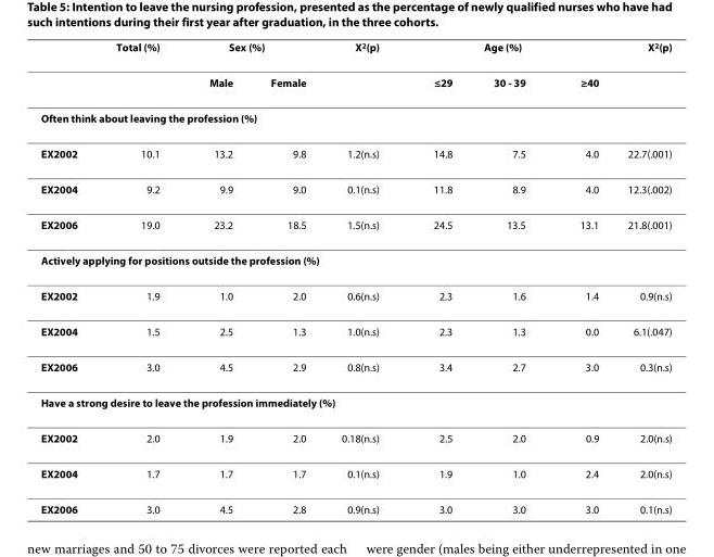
<table><thead><tr><td rowspan="2"></td><td rowspan="2">Total (%)</td><td colspan="2">Sex (%)</td><td rowspan="2">X<sup>2</sup>(p)</td><td colspan="3">Age (%)</td><td rowspan="2">X<sup>2</sup>(p)</td></tr><tr><td>Male</td><td>Female</td><td>≤29</td><td>30 - 39</td><td>≥40</td></tr></thead><tbody><tr><td colspan="9">Often think about leaving the profession (%)</td></tr><tr><td>EX2002</td><td>10.1</td><td>13.2</td><td>9.8</td><td>1.2(n.s)</td><td>14.8</td><td>7.5</td><td>4.0</td><td>22.7(.001)</td></tr><tr><td>EX2004</td><td>9.2</td><td>9.9</td><td>9.0</td><td>0.1(n.s)</td><td>11.8</td><td>8.9</td><td>4.0</td><td>12.3(.002)</td></tr><tr><td>EX2006</td><td>19.0</td><td>23.2</td><td>18.5</td><td>1.5(n.s)</td><td>24.5</td><td>13.5</td><td>13.1</td><td>21.8(.001)</td></tr><tr><td colspan="9">Actively applying for positions outside the profession (%)</td></tr><tr><td>EX2002</td><td>1.9</td><td>1.0</td><td>2.0</td><td>0.6(n.s)</td><td>2.3</td><td>1.6</td><td>1.4</td><td>0.9(n.s)</td></tr><tr><td>EX2004</td><td>1.5</td><td>2.5</td><td>1.3</td><td>1.0(n.s)</td><td>2.3</td><td>1.3</td><td>0.0</td><td>6.1(.047)</td></tr><tr><td>EX2006</td><td>3.0</td><td>4.5</td><td>2.9</td><td>0.8(n.s)</td><td>3.4</td><td>2.7</td><td>3.0</td><td>0.3(n.s)</td></tr><tr><td colspan="9">Have a strong desire to leave the profession immediately (%)</td></tr><tr><td>EX2002</td><td>2.0</td><td>1.9</td><td>2.0</td><td>0.18(n.s)</td><td>2.5</td><td>2.0</td><td>0.9</td><td>2.0(n.s)</td></tr><tr><td>EX2004</td><td>1.7</td><td>1.7</td><td>1.7</td><td>0.1(n.s)</td><td>1.9</td><td>1.0</td><td>2.4</td><td>2.0(n.s)</td></tr><tr><td>EX2006</td><td>3.0</td><td>4.5</td><td>2.8</td><td>0.9(n.s)</td><td>3.0</td><td>3.0</td><td>3.0</td><td>0.1(n.s)</td></tr></tbody></table>